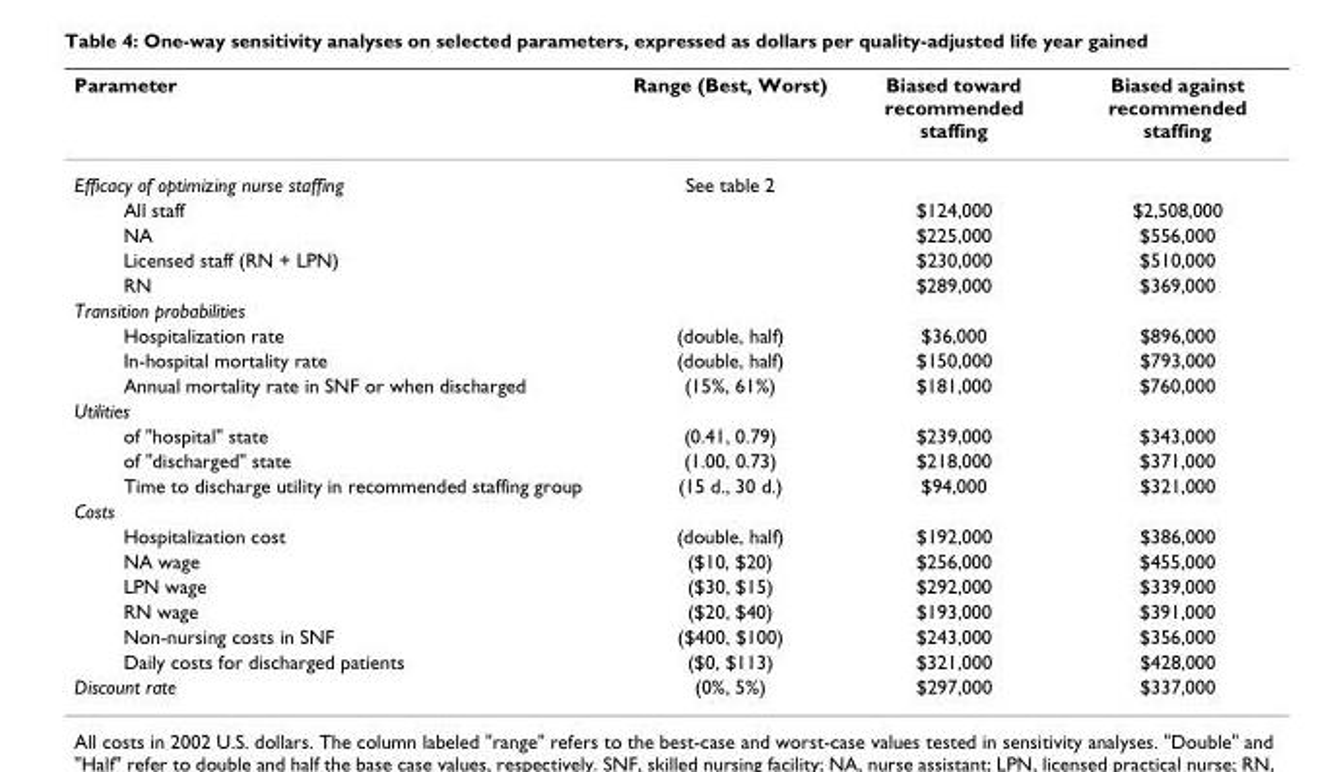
<table><thead><tr><td>Parameter</td><td>Range (Best, Worst)</td><td>Biased toward recommended staffing</td><td>Biased against recommended staffing</td></tr></thead><tbody><tr><td>Efficacy of optimizing nurse staffing</td><td>See table 2</td><td></td><td></td></tr><tr><td>All staff</td><td></td><td>$124,000</td><td>$2,508,000</td></tr><tr><td>NA</td><td></td><td>$225,000</td><td>$556,000</td></tr><tr><td>Licensed staff (RN + LPN)</td><td></td><td>$230,000</td><td>$510,000</td></tr><tr><td>RN</td><td></td><td>$289,000</td><td>$369,000</td></tr><tr><td colspan="4">Transition probabilities</td></tr><tr><td>Hospitalization rate</td><td>(double, half)</td><td>$36,000</td><td>$896,000</td></tr><tr><td>In-hospital mortality rate</td><td>(double, half)</td><td>$150,000</td><td>$793,000</td></tr><tr><td>Annual mortality rate in SNF or when discharged</td><td>(15%, 61%)</td><td>$181,000</td><td>$760,000</td></tr><tr><td colspan="4">Utilities</td></tr><tr><td>of &quot;hospital&quot; state</td><td>(0.41, 0.79)</td><td>$239,000</td><td>$343,000</td></tr><tr><td>of &quot;discharged&quot; state</td><td>(1.00, 0.73)</td><td>$218,000</td><td>$371,000</td></tr><tr><td>Time to discharge utility in recommended staffing group</td><td>(15 d., 30 d.)</td><td>$94,000</td><td>$321,000</td></tr><tr><td colspan="4">Costs</td></tr><tr><td>Hospitalization cost</td><td>(double, half)</td><td>$192,000</td><td>$386,000</td></tr><tr><td>NA wage</td><td>($10, $20)</td><td>$256,000</td><td>$455,000</td></tr><tr><td>LPN wage</td><td>($30, $15)</td><td>$292,000</td><td>$339,000</td></tr><tr><td>RN wage</td><td>($20, $40)</td><td>$193,000</td><td>$391,000</td></tr><tr><td>Non-nursing costs in SNF</td><td>($400, $100)</td><td>$243,000</td><td>$356,000</td></tr><tr><td>Daily costs for discharged patients</td><td>($0, $113)</td><td>$321,000</td><td>$428,000</td></tr><tr><td>Discount rate</td><td>(0%, 5%)</td><td>$297,000</td><td>$337,000</td></tr></tbody></table>